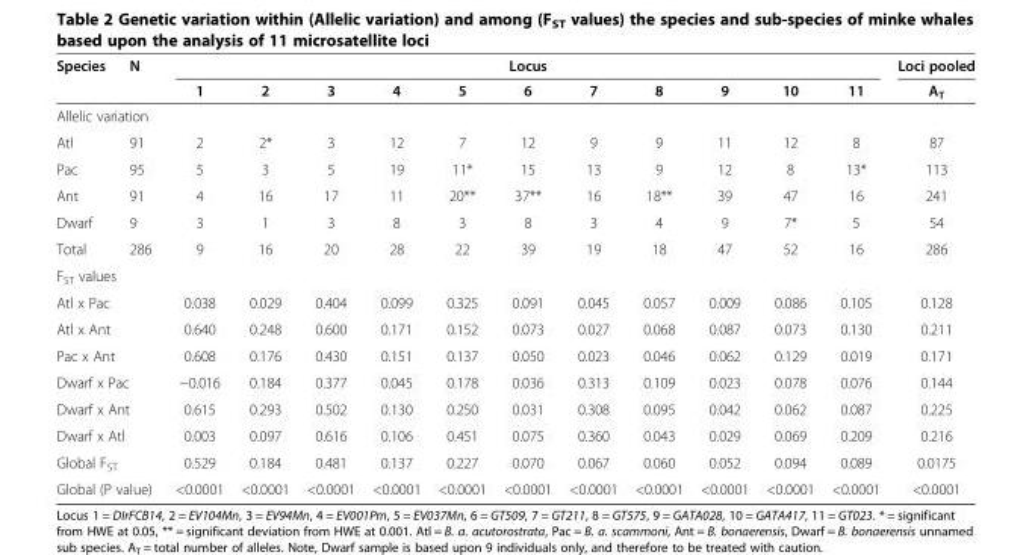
<table><thead><tr><td rowspan="2">Species</td><td rowspan="2">N</td><td colspan="11">Locus</td><td rowspan="2">Loci pooled A<sub>T</sub></td></tr><tr><td>1</td><td>2</td><td>3</td><td>4</td><td>5</td><td>6</td><td>7</td><td>8</td><td>9</td><td>10</td><td>11</td></tr></thead><tbody><tr><td colspan="14">Allelic variation</td></tr><tr><td>Atl</td><td>91</td><td>2</td><td>2*</td><td>3</td><td>12</td><td>7</td><td>12</td><td>9</td><td>9</td><td>11</td><td>12</td><td>8</td><td>87</td></tr><tr><td>Pac</td><td>95</td><td>5</td><td>3</td><td>5</td><td>19</td><td>11*</td><td>15</td><td>13</td><td>9</td><td>12</td><td>8</td><td>13*</td><td>113</td></tr><tr><td>Ant</td><td>91</td><td>4</td><td>16</td><td>17</td><td>11</td><td>20**</td><td>37**</td><td>16</td><td>18**</td><td>39</td><td>47</td><td>16</td><td>241</td></tr><tr><td>Dwarf</td><td>9</td><td>3</td><td>1</td><td>3</td><td>8</td><td>3</td><td>8</td><td>3</td><td>4</td><td>9</td><td>7*</td><td>5</td><td>54</td></tr><tr><td>Total</td><td>286</td><td>9</td><td>16</td><td>20</td><td>28</td><td>22</td><td>39</td><td>19</td><td>18</td><td>47</td><td>52</td><td>16</td><td>286</td></tr><tr><td colspan="14">F<sub>ST</sub> values</td></tr><tr><td colspan="2">Atl x Pac</td><td>0.038</td><td>0.029</td><td>0.404</td><td>0.099</td><td>0.325</td><td>0.091</td><td>0.045</td><td>0.057</td><td>0.009</td><td>0.086</td><td>0.105</td><td>0.128</td></tr><tr><td colspan="2">Atl x Ant</td><td>0.640</td><td>0.248</td><td>0.600</td><td>0.171</td><td>0.152</td><td>0.073</td><td>0.027</td><td>0.068</td><td>0.087</td><td>0.073</td><td>0.130</td><td>0.211</td></tr><tr><td colspan="2">Pac x Ant</td><td>0.608</td><td>0.176</td><td>0.430</td><td>0.151</td><td>0.137</td><td>0.050</td><td>0.023</td><td>0.046</td><td>0.062</td><td>0.129</td><td>0.019</td><td>0.171</td></tr><tr><td colspan="2">Dwarf x Pac</td><td>−0.016</td><td>0.184</td><td>0.377</td><td>0.045</td><td>0.178</td><td>0.036</td><td>0.313</td><td>0.109</td><td>0.023</td><td>0.078</td><td>0.076</td><td>0.144</td></tr><tr><td colspan="2">Dwarf x Ant</td><td>0.615</td><td>0.293</td><td>0.502</td><td>0.130</td><td>0.250</td><td>0.031</td><td>0.308</td><td>0.095</td><td>0.042</td><td>0.062</td><td>0.087</td><td>0.225</td></tr><tr><td colspan="2">Dwarf x Atl</td><td>0.003</td><td>0.097</td><td>0.616</td><td>0.106</td><td>0.451</td><td>0.075</td><td>0.360</td><td>0.043</td><td>0.029</td><td>0.069</td><td>0.209</td><td>0.216</td></tr><tr><td colspan="2">Global F<sub>ST</sub></td><td>0.529</td><td>0.184</td><td>0.481</td><td>0.137</td><td>0.227</td><td>0.070</td><td>0.067</td><td>0.060</td><td>0.052</td><td>0.094</td><td>0.089</td><td>0.0175</td></tr><tr><td colspan="2">Global (P value)</td><td>&lt;0.0001</td><td>&lt;0.0001</td><td>&lt;0.0001</td><td>&lt;0.0001</td><td>&lt;0.0001</td><td>&lt;0.0001</td><td>&lt;0.0001</td><td>&lt;0.0001</td><td>&lt;0.0001</td><td>&lt;0.0001</td><td>&lt;0.0001</td><td>&lt;0.0001</td></tr></tbody></table>